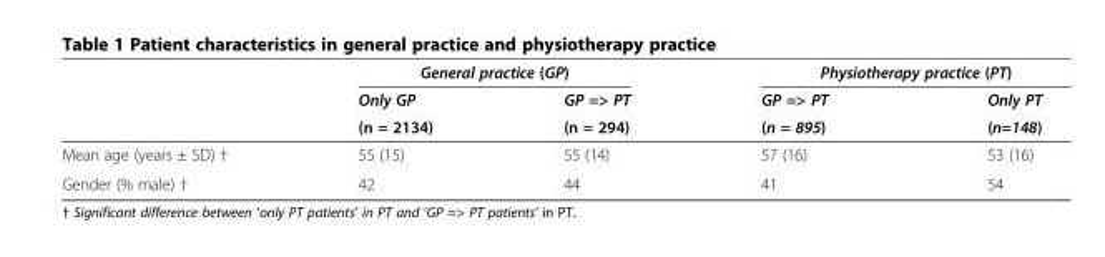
<table><thead><tr><td rowspan="3"></td><td colspan="2">General practice (GP)</td><td colspan="2">Physiotherapy practice (PT)</td></tr><tr><td rowspan="2">Only GP (n = 2134)</td><td rowspan="2">GP =&gt; PT (n = 294)</td><td rowspan="2">GP =&gt; PT (n = 895)</td><td rowspan="2">Only PT (n=148)</td></tr><tr></tr></thead><tbody><tr><td>Mean age (years ± SD) †</td><td>55 (15)</td><td>55 (14)</td><td>57 (16)</td><td>53 (16)</td></tr><tr><td>Gender (% male) †</td><td>42</td><td>44</td><td>41</td><td>54</td></tr></tbody></table>